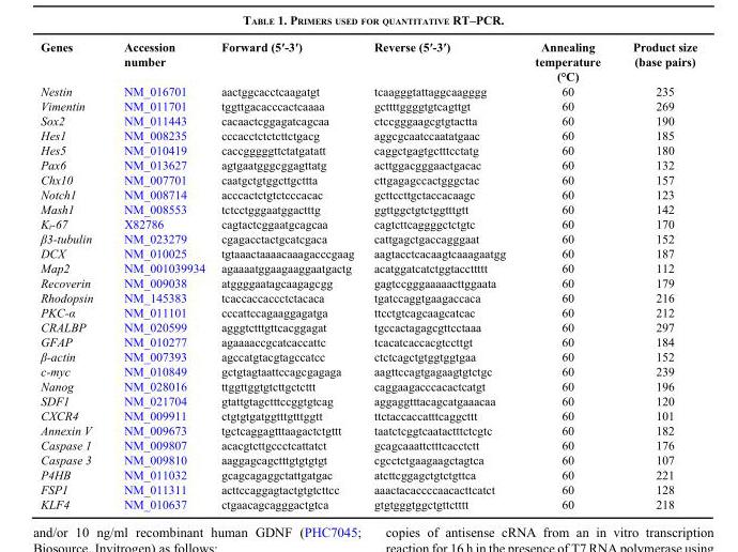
<table><thead><tr><td>Genes</td><td>Accession number</td><td>Forward (5′-3′)</td><td>Reverse (5′-3′)</td><td>Annealing temperature (°C)</td><td>Product size (base pairs)</td></tr></thead><tbody><tr><td>Nestin</td><td>NM_016701</td><td>aactggcacctcaagatgt</td><td>tcaagggtattaggcaagggg</td><td>60</td><td>235</td></tr><tr><td>Vimentin</td><td>NM_011701</td><td>tggttgacacccactcaaaa</td><td>gcttttggggtgtcagttgt</td><td>60</td><td>269</td></tr><tr><td>Sox2</td><td>NM_011443</td><td>cacaactcggagatcagcaa</td><td>ctccgggaagcgtgtactta</td><td>60</td><td>190</td></tr><tr><td>Hes1</td><td>NM_008235</td><td>cccacctctctcttctgacg</td><td>aggcgcaatccaatatgaac</td><td>60</td><td>185</td></tr><tr><td>Hes5</td><td>NM_010419</td><td>caccgggggttctatgatatt</td><td>caggctgagtgctttcctatg</td><td>60</td><td>180</td></tr><tr><td>Pax6</td><td>NM_013627</td><td>agtgaatgggcggagttatg</td><td>acttggacgggaactgacac</td><td>60</td><td>132</td></tr><tr><td>Chx10</td><td>NM_007701</td><td>caatgctgtggcttgcttta</td><td>cttgagagccactgggctac</td><td>60</td><td>157</td></tr><tr><td>Notch1</td><td>NM_008714</td><td>acccactctgtctcccacac</td><td>gcttccttgctaccacaagc</td><td>60</td><td>123</td></tr><tr><td>Mash1</td><td>NM_008553</td><td>tctcctgggaatggactttg</td><td>ggttggctgtctggtttgtt</td><td>60</td><td>142</td></tr><tr><td>K<sub>i</sub>-67</td><td>X82786</td><td>cagtactcggaatgcagcaa</td><td>cagtcttcaggggctctgtc</td><td>60</td><td>170</td></tr><tr><td>β3-tubulin</td><td>NM_023279</td><td>cgagacctactgcatcgaca</td><td>cattgagctgaccagggaat</td><td>60</td><td>152</td></tr><tr><td>DCX</td><td>NM_010025</td><td>tgtaaactaaaacaaagacccgaag</td><td>aagtacctcacaagtcaaagaatgg</td><td>60</td><td>187</td></tr><tr><td>Map2</td><td>NM_001039934</td><td>agaaaatggaagaaggaatgactg</td><td>acatggatcatctggtaccttttt</td><td>60</td><td>112</td></tr><tr><td>Recoverin</td><td>NM_009038</td><td>atggggaatagcaagagcgg</td><td>gagtccgggaaaaacttggaata</td><td>60</td><td>179</td></tr><tr><td>Rhodopsin</td><td>NM_145383</td><td>tcaccaccaccctctacaca</td><td>tgatccaggtgaagaccaca</td><td>60</td><td>216</td></tr><tr><td>PKC-α</td><td>NM_011101</td><td>cccattccagaaggagatga</td><td>ttcctgtcagcaagcatcac</td><td>60</td><td>212</td></tr><tr><td>CRALBP</td><td>NM_020599</td><td>agggtctttgttcacggagat</td><td>tgccactagagcgttcctaaa</td><td>60</td><td>297</td></tr><tr><td>GFAP</td><td>NM_010277</td><td>agaaaaccgcatcaccattc</td><td>tcacatcaccacgtccttgt</td><td>60</td><td>184</td></tr><tr><td>β-actin</td><td>NM_007393</td><td>agccatgtacgtagccatcc</td><td>ctctcagctgtggtggtgaa</td><td>60</td><td>152</td></tr><tr><td>c-myc</td><td>NM_010849</td><td>gctgtagtaattccagcgagaga</td><td>aagttccagtgagaagtgtctgc</td><td>60</td><td>239</td></tr><tr><td>Nanog</td><td>NM_028016</td><td>ttggttggtgtcttgctcttt</td><td>caggaagacccacactcatgt</td><td>60</td><td>196</td></tr><tr><td>SDF1</td><td>NM_021704</td><td>gtattgtagctttccggtgtcag</td><td>aggaggtttacagcatgaaacaa</td><td>60</td><td>120</td></tr><tr><td>CXCR4</td><td>NM_009911</td><td>ctgtgtgatggtttgtttggtt</td><td>ttctaccaccatttcaggcttt</td><td>60</td><td>101</td></tr><tr><td>Annexin V</td><td>NM_009673</td><td>tgctcaggagtttaagactctgttt</td><td>taatctcggtcaatactttctcgtc</td><td>60</td><td>182</td></tr><tr><td>Caspase 1</td><td>NM_009807</td><td>acacgtcttgccctcattatct</td><td>gcagcaaattctttcacctctt</td><td>60</td><td>176</td></tr><tr><td>Caspase 3</td><td>NM_009810</td><td>aaggagcagctttgtgtgtgt</td><td>cgcctctgaagaagctagtca</td><td>60</td><td>107</td></tr><tr><td>P4HB</td><td>NM_011032</td><td>gcagcagaggctattgatgac</td><td>atcttcggagctgtctgttca</td><td>60</td><td>221</td></tr><tr><td>FSP1</td><td>NM_011311</td><td>acttccaggagtactgtgtcttcc</td><td>aaactacaccccaacacttcatct</td><td>60</td><td>128</td></tr><tr><td>KLF4</td><td>NM_010637</td><td>ctgaacagcagggactgtca</td><td>gtgtgggtggctgttctttt</td><td>60</td><td>218</td></tr></tbody></table>